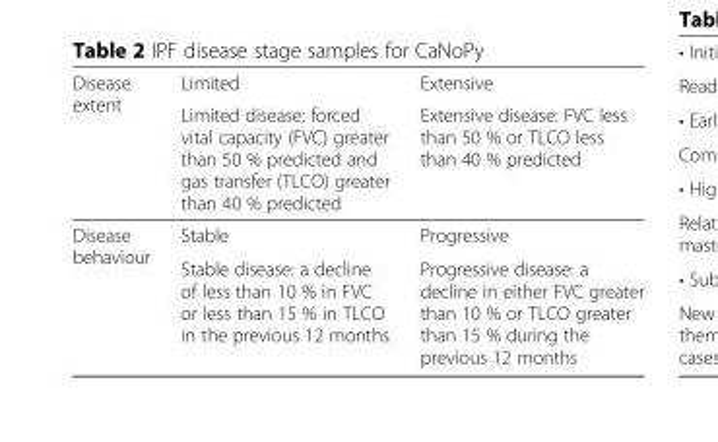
<table><thead><tr><td rowspan="2">Disease extent</td><td rowspan="2">Limited Limited disease: forced vital capacity (FVC) greater than 50 % predicted and gas transfer (TLCO) greater than 40 % predicted</td><td rowspan="2">Extensive Extensive disease: FVC less than 50 % or TLCO less than 40 % predicted</td></tr><tr></tr></thead><tbody><tr><td rowspan="2">Disease behaviour</td><td>Stable</td><td>Progressive</td></tr><tr><td>Stable disease: a decline of less than 10 % in FVC or less than 15 % in TLCO in the previous 12 months</td><td>Progressive disease: a decline in either FVC greater than 10 % or TLCO greater than 15 % during the previous 12 months</td></tr></tbody></table>